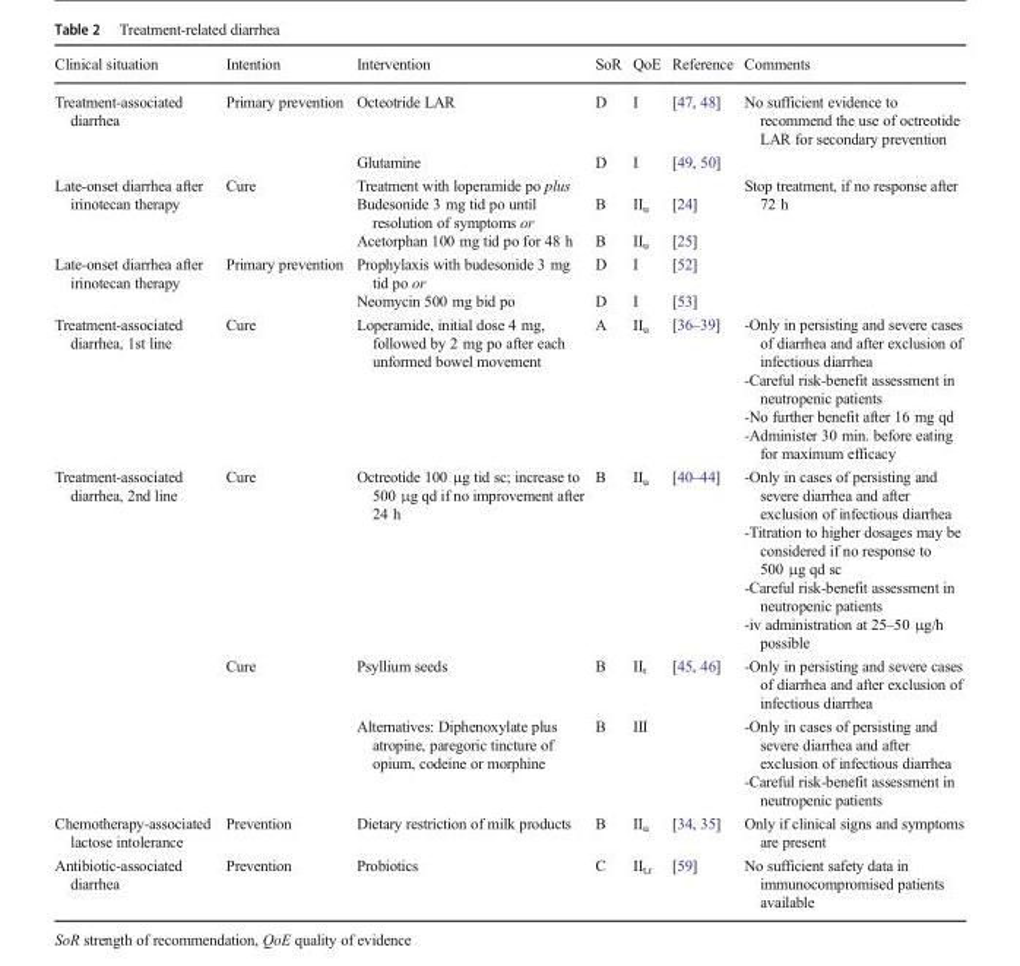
<table><thead><tr><td>Clinical situation</td><td>Intention</td><td>Intervention</td><td>SoR</td><td>QoE</td><td>Reference</td><td>Comments</td></tr></thead><tbody><tr><td rowspan="2">Treatment-associated diarrhea</td><td rowspan="2">Primary prevention</td><td>Octeotride LAR</td><td>D</td><td>I</td><td>[47, 48]</td><td>No sufficient evidence to recommend the use of octreotide LAR for secondary prevention</td></tr><tr><td>Glutamine</td><td>D</td><td>I</td><td>[49, 50]</td><td></td></tr><tr><td rowspan="3">Late-onset diarrhea after irinotecan therapy</td><td rowspan="3">Cure</td><td>Treatment with loperamide po plus</td><td></td><td></td><td></td><td rowspan="3">Stop treatment, if no response after 72 h</td></tr><tr><td>Budesonide 3 mg tid po until resolution of symptoms or</td><td>B</td><td>II<sub>u</sub></td><td>[24]</td></tr><tr><td>Acetorphan 100 mg tid po for 48 h</td><td>B</td><td>II<sub>u</sub></td><td>[25]</td></tr><tr><td rowspan="2">Late-onset diarrhea after irinotecan therapy</td><td rowspan="2">Primary prevention</td><td>Prophylaxis with budesonide 3 mg tid po or</td><td>D</td><td>I</td><td>[52]</td><td></td></tr><tr><td>Neomycin 500 mg bid po</td><td>D</td><td>I</td><td>[53]</td><td></td></tr><tr><td>Treatment-associated diarrhea, 1st line</td><td>Cure</td><td>Loperamide, initial dose 4 mg, followed by 2 mg po after each unformed bowel movement</td><td>A</td><td>II<sub>u</sub></td><td>[36–39]</td><td>-Only in persisting and severe cases of diarrhea and after exclusion of infectious diarrhea -Careful risk-benefit assessment in neutropenic patients -No further benefit after 16 mg qd -Administer 30 min. before eating for maximum efficacy</td></tr><tr><td rowspan="3">Treatment-associated diarrhea, 2nd line</td><td>Cure</td><td>Octreotide 100 μg tid sc; increase to 500 μg qd if no improvement after 24 h</td><td>B</td><td>II<sub>u</sub></td><td>[40–44]</td><td>-Only in cases of persisting and severe diarrhea and after exclusion of infectious diarrhea -Titration to higher dosages may be considered if no response to 500 μg qd sc -Careful risk-benefit assessment in neutropenic patients -iv administration at 25–50 μg/h possible</td></tr><tr><td rowspan="2">Cure</td><td>Psyllium seeds</td><td>B</td><td>II<sub>t</sub></td><td>[45, 46]</td><td>-Only in persisting and severe cases of diarrhea and after exclusion of infectious diarrhea</td></tr><tr><td>Alternatives: Diphenoxylate plus atropine, paregoric tincture of opium, codeine or morphine</td><td>B</td><td>III</td><td></td><td>-Only in cases of persisting and severe diarrhea and after exclusion of infectious diarrhea -Careful risk-benefit assessment in neutropenic patients</td></tr><tr><td>Chemotherapy-associated lactose intolerance</td><td>Prevention</td><td>Dietary restriction of milk products</td><td>B</td><td>II<sub>u</sub></td><td>[34, 35]</td><td>Only if clinical signs and symptoms are present</td></tr><tr><td>Antibiotic-associated diarrhea</td><td>Prevention</td><td>Probiotics</td><td>C</td><td>II<sub>t,r</sub></td><td>[59]</td><td>No sufficient safety data in immunocompromised patients available</td></tr></tbody></table>